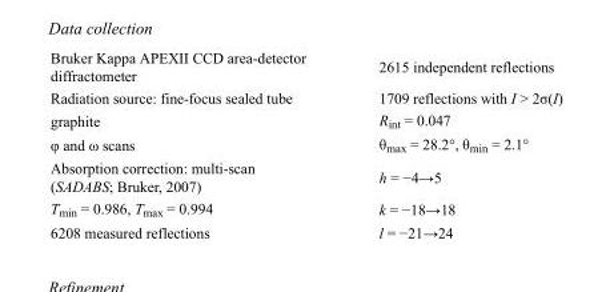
<table><tbody><tr><td>Bruker Kappa APEXII CCD area-detector diffractometer</td><td>2615 independent reflections</td></tr><tr><td>Radiation source: fine-focus sealed tube</td><td>1709 reflections with I &gt; 2σ(I)</td></tr><tr><td>graphite</td><td>R<sub>int</sub> = 0.047</td></tr><tr><td>φ and ω scans</td><td>θ<sub>max</sub> = 28.2°, θ<sub>min</sub> = 2.1°</td></tr><tr><td>Absorption correction: multi-scan (SADABS; Bruker, 2007)</td><td>h = −4→5</td></tr><tr><td>T<sub>min</sub> = 0.986, T<sub>max</sub> = 0.994</td><td>k = −18→18</td></tr><tr><td>6208 measured reflections</td><td>l = −21→24</td></tr></tbody></table>